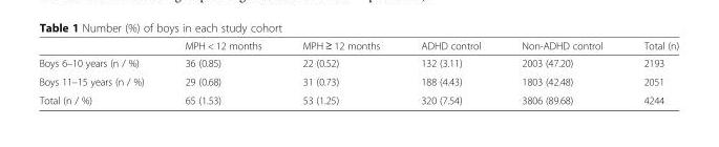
<table><thead><tr><td></td><td>MPH &lt; 12 months</td><td>MPH ≥ 12 months</td><td>ADHD control</td><td>Non-ADHD control</td><td>Total (n)</td></tr></thead><tbody><tr><td>Boys 6–10 years (n / %)</td><td>36 (0.85)</td><td>22 (0.52)</td><td>132 (3.11)</td><td>2003 (47.20)</td><td>2193</td></tr><tr><td>Boys 11–15 years (n / %)</td><td>29 (0.68)</td><td>31 (0.73)</td><td>188 (4.43)</td><td>1803 (42.48)</td><td>2051</td></tr><tr><td>Total (n / %)</td><td>65 (1.53)</td><td>53 (1.25)</td><td>320 (7.54)</td><td>3806 (89.68)</td><td>4244</td></tr></tbody></table>